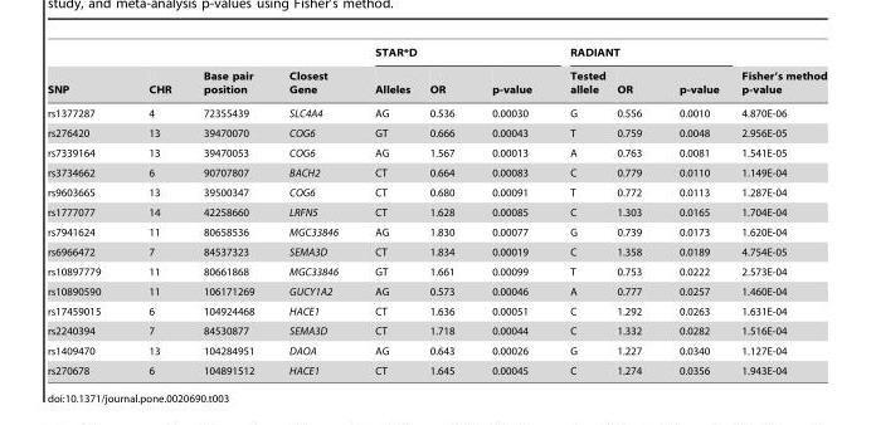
<table><thead><tr><td rowspan="2">SNP</td><td rowspan="2">CHR</td><td rowspan="2">Base pair position</td><td rowspan="2">Closest Gene</td><td colspan="3">STAR*D</td><td colspan="3">RADIANT</td><td rowspan="2">Fisher’s method p-value</td></tr><tr><td>Alleles</td><td>OR</td><td>p-value</td><td>Tested allele</td><td>OR</td><td>p-value</td></tr></thead><tbody><tr><td>rs1377287</td><td>4</td><td>72355439</td><td>SLC4A4</td><td>AG</td><td>0.536</td><td>0.00030</td><td>G</td><td>0.556</td><td>0.0010</td><td>4.870E-06</td></tr><tr><td>rs276420</td><td>13</td><td>39470070</td><td>COG6</td><td>GT</td><td>0.666</td><td>0.00043</td><td>T</td><td>0.759</td><td>0.0048</td><td>2.956E-05</td></tr><tr><td>rs7339164</td><td>13</td><td>39470053</td><td>COG6</td><td>AG</td><td>1.567</td><td>0.00013</td><td>A</td><td>0.763</td><td>0.0081</td><td>1.541E-05</td></tr><tr><td>rs3734662</td><td>6</td><td>90707807</td><td>BACH2</td><td>CT</td><td>0.664</td><td>0.00083</td><td>C</td><td>0.779</td><td>0.0110</td><td>1.149E-04</td></tr><tr><td>rs9603665</td><td>13</td><td>39500347</td><td>COG6</td><td>CT</td><td>0.680</td><td>0.00091</td><td>T</td><td>0.772</td><td>0.0113</td><td>1.287E-04</td></tr><tr><td>rs1777077</td><td>14</td><td>42258660</td><td>LRFN5</td><td>CT</td><td>1.628</td><td>0.00085</td><td>C</td><td>1.303</td><td>0.0165</td><td>1.704E-04</td></tr><tr><td>rs7941624</td><td>11</td><td>80658536</td><td>MGC33846</td><td>AG</td><td>1.830</td><td>0.00077</td><td>G</td><td>0.739</td><td>0.0173</td><td>1.620E-04</td></tr><tr><td>rs6966472</td><td>7</td><td>84537323</td><td>SEMA3D</td><td>CT</td><td>1.834</td><td>0.00019</td><td>C</td><td>1.358</td><td>0.0189</td><td>4.754E-05</td></tr><tr><td>rs10897779</td><td>11</td><td>80661868</td><td>MGC33846</td><td>GT</td><td>1.661</td><td>0.00099</td><td>T</td><td>0.753</td><td>0.0222</td><td>2.573E-04</td></tr><tr><td>rs10890590</td><td>11</td><td>106171269</td><td>GUCY1A2</td><td>AG</td><td>0.573</td><td>0.00046</td><td>A</td><td>0.777</td><td>0.0257</td><td>1.460E-04</td></tr><tr><td>rs17459015</td><td>6</td><td>104924468</td><td>HACE1</td><td>CT</td><td>1.636</td><td>0.00051</td><td>C</td><td>1.292</td><td>0.0263</td><td>1.631E-04</td></tr><tr><td>rs2240394</td><td>7</td><td>84530877</td><td>SEMA3D</td><td>CT</td><td>1.718</td><td>0.00044</td><td>C</td><td>1.332</td><td>0.0282</td><td>1.516E-04</td></tr><tr><td>rs1409470</td><td>13</td><td>104284951</td><td>DAOA</td><td>AG</td><td>0.643</td><td>0.00026</td><td>G</td><td>1.227</td><td>0.0340</td><td>1.127E-04</td></tr><tr><td>rs270678</td><td>6</td><td>104891512</td><td>HACE1</td><td>CT</td><td>1.645</td><td>0.00045</td><td>C</td><td>1.274</td><td>0.0356</td><td>1.943E-04</td></tr></tbody></table>